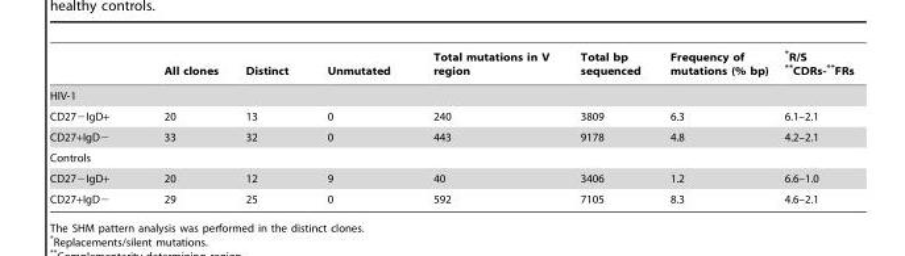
<table><thead><tr><td></td><td>All clones</td><td>Distinct</td><td>Unmutated</td><td>Total mutations in V region</td><td>Total bp sequenced</td><td>Frequency of mutations (% bp)</td><td>*R/S **CDRs-**FRs</td></tr></thead><tbody><tr><td colspan="8">HIV-1</td></tr><tr><td>CD27−IgD+</td><td>20</td><td>13</td><td>0</td><td>240</td><td>3809</td><td>6.3</td><td>6.1–2.1</td></tr><tr><td>CD27+IgD−</td><td>33</td><td>32</td><td>0</td><td>443</td><td>9178</td><td>4.8</td><td>4.2–2.1</td></tr><tr><td colspan="8">Controls</td></tr><tr><td>CD27−IgD+</td><td>20</td><td>12</td><td>9</td><td>40</td><td>3406</td><td>1.2</td><td>6.6–1.0</td></tr><tr><td>CD27+IgD−</td><td>29</td><td>25</td><td>0</td><td>592</td><td>7105</td><td>8.3</td><td>4.6–2.1</td></tr></tbody></table>